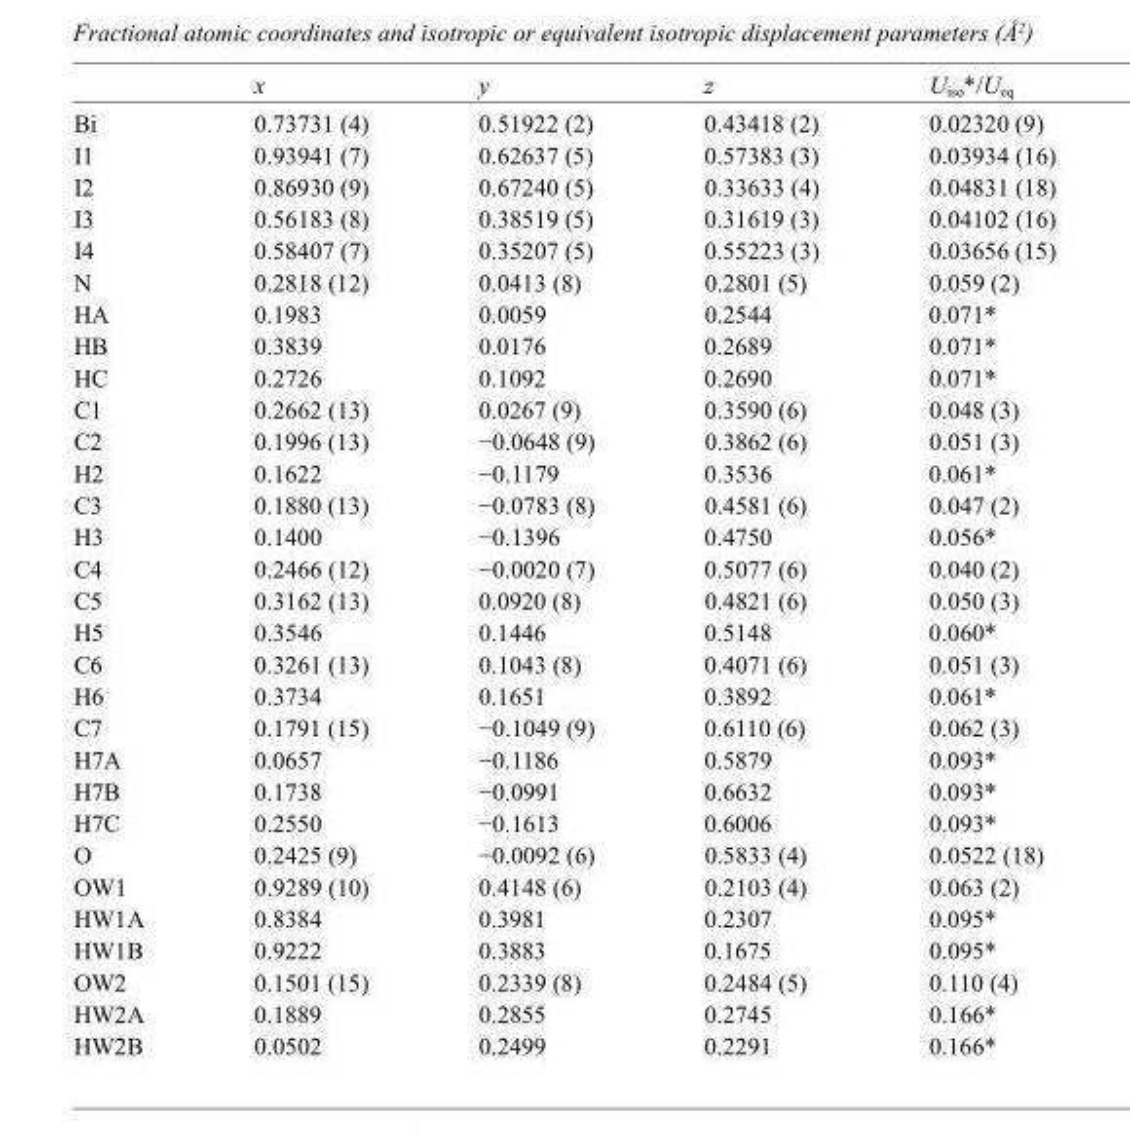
<table><thead><tr><td></td><td>x</td><td>y</td><td>z</td><td>U<sub>iso</sub>*/U<sub>eq</sub></td></tr></thead><tbody><tr><td>Bi</td><td>0.73731 (4)</td><td>0.51922 (2)</td><td>0.43418 (2)</td><td>0.02320 (9)</td></tr><tr><td>I1</td><td>0.93941 (7)</td><td>0.62637 (5)</td><td>0.57383 (3)</td><td>0.03934 (16)</td></tr><tr><td>I2</td><td>0.86930 (9)</td><td>0.67240 (5)</td><td>0.33633 (4)</td><td>0.04831 (18)</td></tr><tr><td>I3</td><td>0.56183 (8)</td><td>0.38519 (5)</td><td>0.31619 (3)</td><td>0.04102 (16)</td></tr><tr><td>I4</td><td>0.58407 (7)</td><td>0.35207 (5)</td><td>0.55223 (3)</td><td>0.03656 (15)</td></tr><tr><td>N</td><td>0.2818 (12)</td><td>0.0413 (8)</td><td>0.2801 (5)</td><td>0.059 (2)</td></tr><tr><td>HA</td><td>0.1983</td><td>0.0059</td><td>0.2544</td><td>0.071*</td></tr><tr><td>HB</td><td>0.3839</td><td>0.0176</td><td>0.2689</td><td>0.071*</td></tr><tr><td>HC</td><td>0.2726</td><td>0.1092</td><td>0.2690</td><td>0.071*</td></tr><tr><td>C1</td><td>0.2662 (13)</td><td>0.0267 (9)</td><td>0.3590 (6)</td><td>0.048 (3)</td></tr><tr><td>C2</td><td>0.1996 (13)</td><td>−0.0648 (9)</td><td>0.3862 (6)</td><td>0.051 (3)</td></tr><tr><td>H2</td><td>0.1622</td><td>−0.1179</td><td>0.3536</td><td>0.061*</td></tr><tr><td>C3</td><td>0.1880 (13)</td><td>−0.0783 (8)</td><td>0.4581 (6)</td><td>0.047 (2)</td></tr><tr><td>H3</td><td>0.1400</td><td>−0.1396</td><td>0.4750</td><td>0.056*</td></tr><tr><td>C4</td><td>0.2466 (12)</td><td>−0.0020 (7)</td><td>0.5077 (6)</td><td>0.040 (2)</td></tr><tr><td>C5</td><td>0.3162 (13)</td><td>0.0920 (8)</td><td>0.4821 (6)</td><td>0.050 (3)</td></tr><tr><td>H5</td><td>0.3546</td><td>0.1446</td><td>0.5148</td><td>0.060*</td></tr><tr><td>C6</td><td>0.3261 (13)</td><td>0.1043 (8)</td><td>0.4071 (6)</td><td>0.051 (3)</td></tr><tr><td>H6</td><td>0.3734</td><td>0.1651</td><td>0.3892</td><td>0.061*</td></tr><tr><td>C7</td><td>0.1791 (15)</td><td>−0.1049 (9)</td><td>0.6110 (6)</td><td>0.062 (3)</td></tr><tr><td>H7A</td><td>0.0657</td><td>−0.1186</td><td>0.5879</td><td>0.093*</td></tr><tr><td>H7B</td><td>0.1738</td><td>−0.0991</td><td>0.6632</td><td>0.093*</td></tr><tr><td>H7C</td><td>0.2550</td><td>−0.1613</td><td>0.6006</td><td>0.093*</td></tr><tr><td>O</td><td>0.2425 (9)</td><td>−0.0092 (6)</td><td>0.5833 (4)</td><td>0.0522 (18)</td></tr><tr><td>OW1</td><td>0.9289 (10)</td><td>0.4148 (6)</td><td>0.2103 (4)</td><td>0.063 (2)</td></tr><tr><td>HW1A</td><td>0.8384</td><td>0.3981</td><td>0.2307</td><td>0.095*</td></tr><tr><td>HW1B</td><td>0.9222</td><td>0.3883</td><td>0.1675</td><td>0.095*</td></tr><tr><td>OW2</td><td>0.1501 (15)</td><td>0.2339 (8)</td><td>0.2484 (5)</td><td>0.110 (4)</td></tr><tr><td>HW2A</td><td>0.1889</td><td>0.2855</td><td>0.2745</td><td>0.166*</td></tr><tr><td>HW2B</td><td>0.0502</td><td>0.2499</td><td>0.2291</td><td>0.166*</td></tr></tbody></table>